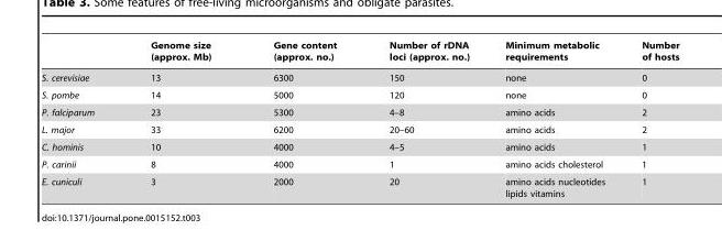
<table><thead><tr><td></td><td>Genome size (approx. Mb)</td><td>Gene content (approx. no.)</td><td>Number of rDNA loci (approx. no.)</td><td>Minimum metabolic requirements</td><td>Number of hosts</td></tr></thead><tbody><tr><td>S. cerevisiae</td><td>13</td><td>6300</td><td>150</td><td>none</td><td>0</td></tr><tr><td>S. pombe</td><td>14</td><td>5000</td><td>120</td><td>none</td><td>0</td></tr><tr><td>P. falciparum</td><td>23</td><td>5300</td><td>4–8</td><td>amino acids</td><td>2</td></tr><tr><td>L. major</td><td>33</td><td>6200</td><td>20–60</td><td>amino acids</td><td>2</td></tr><tr><td>C. hominis</td><td>10</td><td>4000</td><td>4–5</td><td>amino acids</td><td>1</td></tr><tr><td>P. carinii</td><td>8</td><td>4000</td><td>1</td><td>amino acids cholesterol</td><td>1</td></tr><tr><td>E. cuniculi</td><td>3</td><td>2000</td><td>20</td><td>amino acids nucleotides lipids vitamins</td><td>1</td></tr></tbody></table>